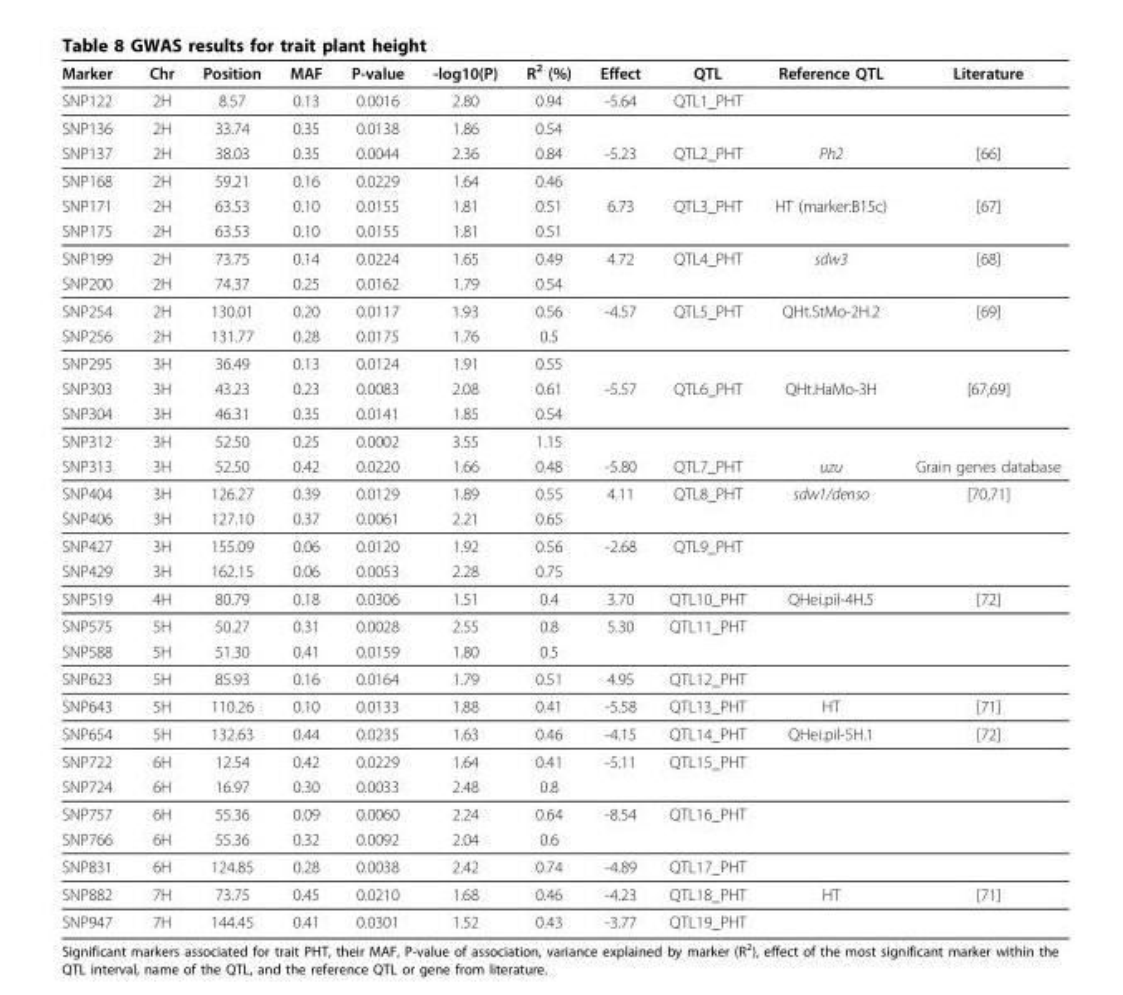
<table><thead><tr><td>Marker</td><td>Chr</td><td>Position</td><td>MAF</td><td>P-value</td><td>-log10(P)</td><td>R<sup>2</sup> (%)</td><td>Effect</td><td>QTL</td><td>Reference QTL</td><td>Literature</td></tr></thead><tbody><tr><td>SNP122</td><td>2H</td><td>8.57</td><td>0.13</td><td>0.0016</td><td>2.80</td><td>0.94</td><td>-5.64</td><td>QTL1_PHT</td><td></td><td></td></tr><tr><td>SNP136</td><td>2H</td><td>33.74</td><td>0.35</td><td>0.0138</td><td>1.86</td><td>0.54</td><td></td><td></td><td></td><td></td></tr><tr><td>SNP137</td><td>2H</td><td>38.03</td><td>0.35</td><td>0.0044</td><td>2.36</td><td>0.84</td><td>-5.23</td><td>QTL2_PHT</td><td>Ph2</td><td>[66]</td></tr><tr><td>SNP168</td><td>2H</td><td>59.21</td><td>0.16</td><td>0.0229</td><td>1.64</td><td>0.46</td><td></td><td></td><td></td><td></td></tr><tr><td>SNP171</td><td>2H</td><td>63.53</td><td>0.10</td><td>0.0155</td><td>1.81</td><td>0.51</td><td>6.73</td><td>QTL3_PHT</td><td>HT (marker:B15c)</td><td>[67]</td></tr><tr><td>SNP175</td><td>2H</td><td>63.53</td><td>0.10</td><td>0.0155</td><td>1.81</td><td>0.51</td><td></td><td></td><td></td><td></td></tr><tr><td>SNP199</td><td>2H</td><td>73.75</td><td>0.14</td><td>0.0224</td><td>1.65</td><td>0.49</td><td>4.72</td><td>QTL4_PHT</td><td>sdw3</td><td>[68]</td></tr><tr><td>SNP200</td><td>2H</td><td>74.37</td><td>0.25</td><td>0.0162</td><td>1.79</td><td>0.54</td><td></td><td></td><td></td><td></td></tr><tr><td>SNP254</td><td>2H</td><td>130.01</td><td>0.20</td><td>0.0117</td><td>1.93</td><td>0.56</td><td>-4.57</td><td>QTL5_PHT</td><td>QHt.StMo-2H.2</td><td>[69]</td></tr><tr><td>SNP256</td><td>2H</td><td>131.77</td><td>0.28</td><td>0.0175</td><td>1.76</td><td>0.5</td><td></td><td></td><td></td><td></td></tr><tr><td>SNP295</td><td>3H</td><td>36.49</td><td>0.13</td><td>0.0124</td><td>1.91</td><td>0.55</td><td></td><td></td><td></td><td></td></tr><tr><td>SNP303</td><td>3H</td><td>43.23</td><td>0.23</td><td>0.0083</td><td>2.08</td><td>0.61</td><td>-5.57</td><td>QTL6_PHT</td><td>QHt.HaMo-3H</td><td>[67,69]</td></tr><tr><td>SNP304</td><td>3H</td><td>46.31</td><td>0.35</td><td>0.0141</td><td>1.85</td><td>0.54</td><td></td><td></td><td></td><td></td></tr><tr><td>SNP312</td><td>3H</td><td>52.50</td><td>0.25</td><td>0.0002</td><td>3.55</td><td>1.15</td><td></td><td></td><td></td><td></td></tr><tr><td>SNP313</td><td>3H</td><td>52.50</td><td>0.42</td><td>0.0220</td><td>1.66</td><td>0.48</td><td>-5.80</td><td>QTL7_PHT</td><td>uzu</td><td>Grain genes database</td></tr><tr><td>SNP404</td><td>3H</td><td>126.27</td><td>0.39</td><td>0.0129</td><td>1.89</td><td>0.55</td><td>4.11</td><td>QTL8_PHT</td><td>sdw1/denso</td><td>[70,71]</td></tr><tr><td>SNP406</td><td>3H</td><td>127.10</td><td>0.37</td><td>0.0061</td><td>2.21</td><td>0.65</td><td></td><td></td><td></td><td></td></tr><tr><td>SNP427</td><td>3H</td><td>155.09</td><td>0.06</td><td>0.0120</td><td>1.92</td><td>0.56</td><td>-2.68</td><td>QTL9_PHT</td><td></td><td></td></tr><tr><td>SNP429</td><td>3H</td><td>162.15</td><td>0.06</td><td>0.0053</td><td>2.28</td><td>0.75</td><td></td><td></td><td></td><td></td></tr><tr><td>SNP519</td><td>4H</td><td>80.79</td><td>0.18</td><td>0.0306</td><td>1.51</td><td>0.4</td><td>3.70</td><td>QTL10_PHT</td><td>QHei.pil-4H.5</td><td>[72]</td></tr><tr><td>SNP575</td><td>5H</td><td>50.27</td><td>0.31</td><td>0.0028</td><td>2.55</td><td>0.8</td><td>5.30</td><td>QTL11_PHT</td><td></td><td></td></tr><tr><td>SNP588</td><td>5H</td><td>51.30</td><td>0.41</td><td>0.0159</td><td>1.80</td><td>0.5</td><td></td><td></td><td></td><td></td></tr><tr><td>SNP623</td><td>5H</td><td>85.93</td><td>0.16</td><td>0.0164</td><td>1.79</td><td>0.51</td><td>4.95</td><td>QTL12_PHT</td><td></td><td></td></tr><tr><td>SNP643</td><td>5H</td><td>110.26</td><td>0.10</td><td>0.0133</td><td>1.88</td><td>0.41</td><td>-5.58</td><td>QTL13_PHT</td><td>HT</td><td>[71]</td></tr><tr><td>SNP654</td><td>5H</td><td>132.63</td><td>0.44</td><td>0.0235</td><td>1.63</td><td>0.46</td><td>-4.15</td><td>QTL14_PHT</td><td>QHei.pil-5H.1</td><td>[72]</td></tr><tr><td>SNP722</td><td>6H</td><td>12.54</td><td>0.42</td><td>0.0229</td><td>1.64</td><td>0.41</td><td>-5.11</td><td>QTL15_PHT</td><td></td><td></td></tr><tr><td>SNP724</td><td>6H</td><td>16.97</td><td>0.30</td><td>0.0033</td><td>2.48</td><td>0.8</td><td></td><td></td><td></td><td></td></tr><tr><td>SNP757</td><td>6H</td><td>55.36</td><td>0.09</td><td>0.0060</td><td>2.24</td><td>0.64</td><td>-8.54</td><td>QTL16_PHT</td><td></td><td></td></tr><tr><td>SNP766</td><td>6H</td><td>55.36</td><td>0.32</td><td>0.0092</td><td>2.04</td><td>0.6</td><td></td><td></td><td></td><td></td></tr><tr><td>SNP831</td><td>6H</td><td>124.85</td><td>0.28</td><td>0.0038</td><td>2.42</td><td>0.74</td><td>-4.89</td><td>QTL17_PHT</td><td></td><td></td></tr><tr><td>SNP882</td><td>7H</td><td>73.75</td><td>0.45</td><td>0.0210</td><td>1.68</td><td>0.46</td><td>-4.23</td><td>QTL18_PHT</td><td>HT</td><td>[71]</td></tr><tr><td>SNP947</td><td>7H</td><td>144.45</td><td>0.41</td><td>0.0301</td><td>1.52</td><td>0.43</td><td>-3.77</td><td>QTL19_PHT</td><td></td><td></td></tr></tbody></table>